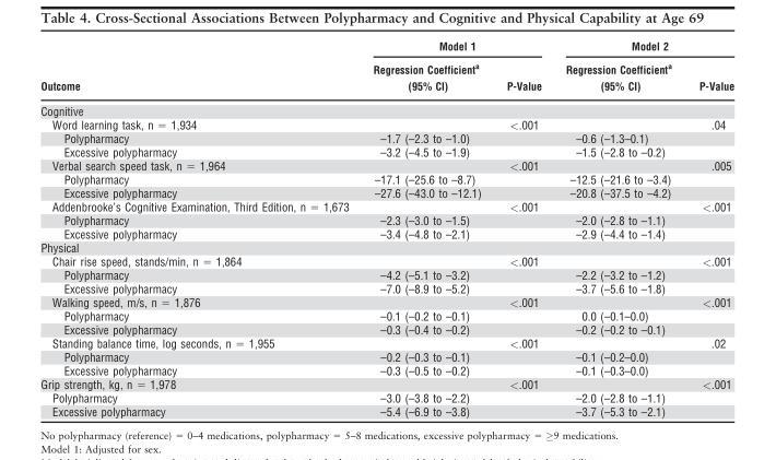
<table><thead><tr><td rowspan="2">Outcome</td><td colspan="2">Model 1</td><td colspan="2">Model 2</td></tr><tr><td>Regression Coefficient<sup>a</sup> (95% CI)</td><td>P-Value</td><td>Regression Coefficient<sup>a</sup> (95% CI)</td><td>P-Value</td></tr></thead><tbody><tr><td colspan="5">Cognitive</td></tr><tr><td>Word learning task, n = 1,934</td><td></td><td>&lt;.001</td><td></td><td>.04</td></tr><tr><td>Polypharmacy</td><td>–1.7 (–2.3 to –1.0)</td><td></td><td>–0.6 (–1.3–0.1)</td><td></td></tr><tr><td>Excessive polypharmacy</td><td>–3.2 (–4.5 to –1.9)</td><td></td><td>–1.5 (–2.8 to –0.2)</td><td></td></tr><tr><td>Verbal search speed task, n = 1,964</td><td></td><td>&lt;.001</td><td></td><td>.005</td></tr><tr><td>Polypharmacy</td><td>–17.1 (–25.6 to –8.7)</td><td></td><td>–12.5 (–21.6 to –3.4)</td><td></td></tr><tr><td>Excessive polypharmacy</td><td>–27.6 (–43.0 to –12.1)</td><td></td><td>–20.8 (–37.5 to –4.2)</td><td></td></tr><tr><td>Addenbrooke’s Cognitive Examination, Third Edition, n = 1,673</td><td></td><td>&lt;.001</td><td></td><td>&lt;.001</td></tr><tr><td>Polypharmacy</td><td>–2.3 (–3.0 to –1.5)</td><td></td><td>–2.0 (–2.8 to –1.1)</td><td></td></tr><tr><td>Excessive polypharmacy</td><td>–3.4 (–4.8 to –2.1)</td><td></td><td>–2.9 (–4.4 to –1.4)</td><td></td></tr><tr><td colspan="5">Physical</td></tr><tr><td>Chair rise speed, stands/min, n = 1,864</td><td></td><td>&lt;.001</td><td></td><td>&lt;.001</td></tr><tr><td>Polypharmacy</td><td>–4.2 (–5.1 to –3.2)</td><td></td><td>–2.2 (–3.2 to –1.2)</td><td></td></tr><tr><td>Excessive polypharmacy</td><td>–7.0 (–8.9 to –5.2)</td><td></td><td>–3.7 (–5.6 to –1.8)</td><td></td></tr><tr><td>Walking speed, m/s, n = 1,876</td><td></td><td>&lt;.001</td><td></td><td>&lt;.001</td></tr><tr><td>Polypharmacy</td><td>–0.1 (–0.2 to –0.1)</td><td></td><td>0.0 (–0.1–0.0)</td><td></td></tr><tr><td>Excessive polypharmacy</td><td>–0.3 (–0.4 to –0.2)</td><td></td><td>–0.2 (–0.2 to –0.1)</td><td></td></tr><tr><td>Standing balance time, log seconds, n = 1,955</td><td></td><td>&lt;.001</td><td></td><td>.02</td></tr><tr><td>Polypharmacy</td><td>–0.2 (–0.3 to –0.1)</td><td></td><td>–0.1 (–0.2–0.0)</td><td></td></tr><tr><td>Excessive polypharmacy</td><td>–0.3 (–0.5 to –0.2)</td><td></td><td>–0.1 (–0.3–0.0)</td><td></td></tr><tr><td>Grip strength, kg, n = 1,978</td><td></td><td>&lt;.001</td><td></td><td>&lt;.001</td></tr><tr><td>Polypharmacy</td><td>–3.0 (–3.8 to –2.2)</td><td></td><td>–2.0 (–2.8 to –1.1)</td><td></td></tr><tr><td>Excessive polypharmacy</td><td>–5.4 (–6.9 to –3.8)</td><td></td><td>–3.7 (–5.3 to –2.1)</td><td></td></tr></tbody></table>